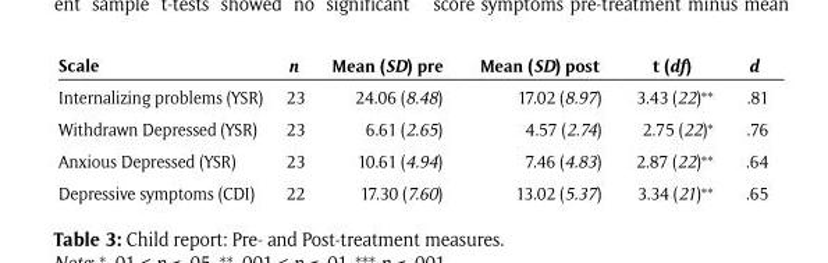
<table><thead><tr><td>Scale</td><td>n</td><td>Mean (SD) pre</td><td>Mean (SD) post</td><td>t (df)</td><td>d</td></tr></thead><tbody><tr><td>Internalizing problems (YSR)</td><td>23</td><td>24.06 (8.48)</td><td>17.02 (8.97)</td><td>3.43 (22)**</td><td>.81</td></tr><tr><td>Withdrawn Depressed (YSR)</td><td>23</td><td>6.61 (2.65)</td><td>4.57 (2.74)</td><td>2.75 (22)*</td><td>.76</td></tr><tr><td>Anxious Depressed (YSR)</td><td>23</td><td>10.61 (4.94)</td><td>7.46 (4.83)</td><td>2.87 (22)**</td><td>.64</td></tr><tr><td>Depressive symptoms (CDI)</td><td>22</td><td>17.30 (7.60)</td><td>13.02 (5.37)</td><td>3.34 (21)**</td><td>.65</td></tr></tbody></table>